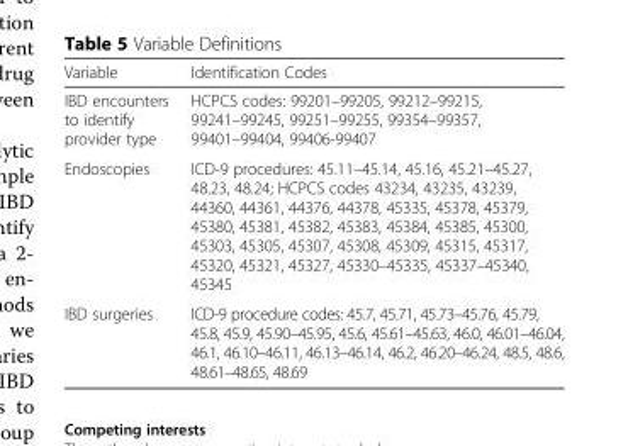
<table><thead><tr><td>Variable</td><td>Identification Codes</td></tr></thead><tbody><tr><td>IBD encounters to identify provider type</td><td>HCPCS codes: 99201–99205, 99212–99215, 99241–99245, 99251–99255, 99354–99357, 99401–99404, 99406-99407</td></tr><tr><td>Endoscopies</td><td>ICD-9 procedures: 45.11–45.14, 45.16, 45.21–45.27, 48.23, 48.24; HCPCS codes 43234, 43235, 43239, 44360, 44361, 44376, 44378, 45335, 45378, 45379, 45380, 45381, 45382, 45383, 45384, 45385, 45300, 45303, 45305, 45307, 45308, 45309, 45315, 45317, 45320, 45321, 45327, 45330–45335, 45337–45340, 45345</td></tr><tr><td>IBD surgeries</td><td>ICD-9 procedure codes: 45.7, 45.71, 45.73–45.76, 45.79, 45.8, 45.9, 45.90–45.95, 45.6, 45.61–45.63, 46.0, 46.01–46.04, 46.1, 46.10–46.11, 46.13–46.14, 46.2, 46.20–46.24, 48.5, 48.6, 48.61–48.65, 48.69</td></tr></tbody></table>